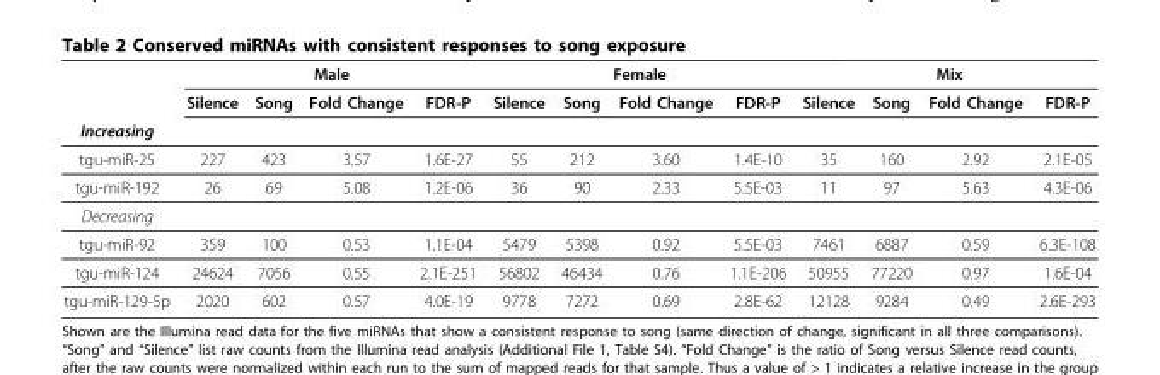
<table><thead><tr><td rowspan="3">Increasing</td><td colspan="4">Male</td><td colspan="4">Female</td><td colspan="4">Mix</td></tr><tr><td rowspan="2">Silence</td><td rowspan="2">Song</td><td rowspan="2">Fold Change</td><td rowspan="2">FDR-P</td><td rowspan="2">Silence</td><td rowspan="2">Song</td><td rowspan="2">Fold Change</td><td rowspan="2">FDR-P</td><td rowspan="2">Silence</td><td rowspan="2">Song</td><td rowspan="2">Fold Change</td><td rowspan="2">FDR-P</td></tr><tr></tr></thead><tbody><tr><td>tgu-miR-25</td><td>227</td><td>423</td><td>3.57</td><td>1.6E-27</td><td>55</td><td>212</td><td>3.60</td><td>1.4E-10</td><td>35</td><td>160</td><td>2.92</td><td>2.1E-05</td></tr><tr><td>tgu-miR-192</td><td>26</td><td>69</td><td>5.08</td><td>1.2E-06</td><td>36</td><td>90</td><td>2.33</td><td>5.5E-03</td><td>11</td><td>97</td><td>5.63</td><td>4.3E-06</td></tr><tr><td colspan="13">Decreasing</td></tr><tr><td>tgu-miR-92</td><td>359</td><td>100</td><td>0.53</td><td>1.1E-04</td><td>5479</td><td>5398</td><td>0.92</td><td>5.5E-03</td><td>7461</td><td>6887</td><td>0.59</td><td>6.3E-108</td></tr><tr><td>tgu-miR-124</td><td>24624</td><td>7056</td><td>0.55</td><td>2.1E-251</td><td>56802</td><td>46434</td><td>0.76</td><td>1.1E-206</td><td>50955</td><td>77220</td><td>0.97</td><td>1.6E-04</td></tr><tr><td>tgu-miR-129-5p</td><td>2020</td><td>602</td><td>0.57</td><td>4.0E-19</td><td>9778</td><td>7272</td><td>0.69</td><td>2.8E-62</td><td>12128</td><td>9284</td><td>0.49</td><td>2.6E-293</td></tr></tbody></table>